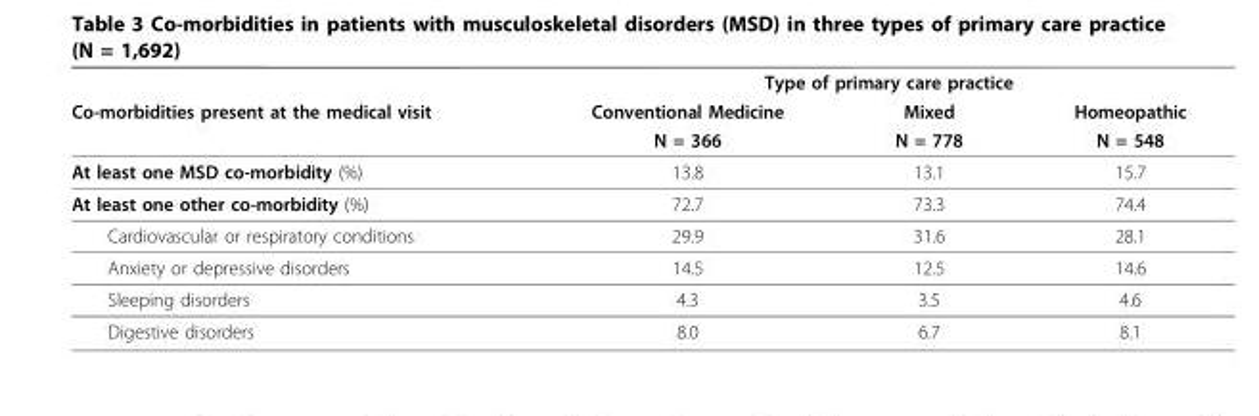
<table><thead><tr><td rowspan="3">Co-morbidities present at the medical visit</td><td colspan="3">Type of primary care practice</td></tr><tr><td rowspan="2">Conventional Medicine N = 366</td><td rowspan="2">Mixed N = 778</td><td rowspan="2">Homeopathic N = 548</td></tr><tr></tr></thead><tbody><tr><td>At least one MSD co-morbidity (%)</td><td>13.8</td><td>13.1</td><td>15.7</td></tr><tr><td>At least one other co-morbidity (%)</td><td>72.7</td><td>73.3</td><td>74.4</td></tr><tr><td>Cardiovascular or respiratory conditions</td><td>29.9</td><td>31.6</td><td>28.1</td></tr><tr><td>Anxiety or depressive disorders</td><td>14.5</td><td>12.5</td><td>14.6</td></tr><tr><td>Sleeping disorders</td><td>4.3</td><td>3.5</td><td>4.6</td></tr><tr><td>Digestive disorders</td><td>8.0</td><td>6.7</td><td>8.1</td></tr></tbody></table>